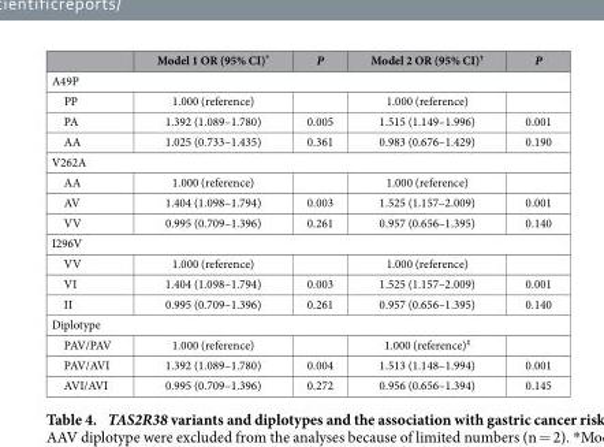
<table><thead><tr><td></td><td>Model 1 OR (95% CI)*</td><td>P</td><td>Model 2 OR (95% CI)†</td><td>P</td></tr></thead><tbody><tr><td colspan="5">A49P</td></tr><tr><td>PP</td><td>1.000 (reference)</td><td></td><td>1.000 (reference)</td><td></td></tr><tr><td>PA</td><td>1.392 (1.089–1.780)</td><td>0.005</td><td>1.515 (1.149–1.996)</td><td>0.001</td></tr><tr><td>AA</td><td>1.025 (0.733–1.435)</td><td>0.361</td><td>0.983 (0.676–1.429)</td><td>0.190</td></tr><tr><td colspan="5">V262A</td></tr><tr><td>AA</td><td>1.000 (reference)</td><td></td><td>1.000 (reference)</td><td></td></tr><tr><td>AV</td><td>1.404 (1.098–1.794)</td><td>0.003</td><td>1.525 (1.157–2.009)</td><td>0.001</td></tr><tr><td>VV</td><td>0.995 (0.709–1.396)</td><td>0.261</td><td>0.957 (0.656–1.395)</td><td>0.140</td></tr><tr><td colspan="5">I296V</td></tr><tr><td>VV</td><td>1.000 (reference)</td><td></td><td>1.000 (reference)</td><td></td></tr><tr><td>VI</td><td>1.404 (1.098–1.794)</td><td>0.003</td><td>1.525 (1.157–2.009)</td><td>0.001</td></tr><tr><td>II</td><td>0.995 (0.709–1.396)</td><td>0.261</td><td>0.957 (0.656–1.395)</td><td>0.140</td></tr><tr><td colspan="5">Diplotype</td></tr><tr><td>PAV/PAV</td><td>1.000 (reference)</td><td></td><td>1.000 (reference)<sup>‡</sup></td><td></td></tr><tr><td>PAV/AVI</td><td>1.392 (1.089–1.780)</td><td>0.004</td><td>1.513 (1.148–1.994)</td><td>0.001</td></tr><tr><td>AVI/AVI</td><td>0.995 (0.709–1.396)</td><td>0.272</td><td>0.956 (0.656–1.394)</td><td>0.145</td></tr></tbody></table>